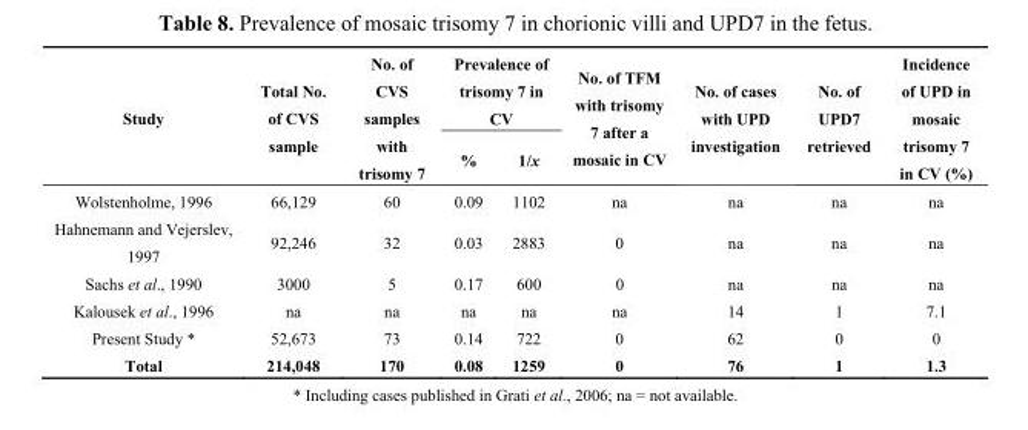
<table><thead><tr><td rowspan="2">Study</td><td rowspan="2">Total No. of CVS sample</td><td rowspan="2">No. of CVS samples with trisomy 7</td><td colspan="2">Prevalence of trisomy 7 in CV</td><td rowspan="2">No. of TFM with trisomy 7 after a mosaic in CV</td><td rowspan="2">No. of cases with UPD investigation</td><td rowspan="2">No. of UPD7 retrieved</td><td rowspan="2">Incidence of UPD in mosaic trisomy 7 in CV (%)</td></tr><tr><td>%</td><td>1/x</td></tr></thead><tbody><tr><td>Wolstenholme, 1996</td><td>66,129</td><td>60</td><td>0.09</td><td>1102</td><td>na</td><td>na</td><td>na</td><td>na</td></tr><tr><td>Hahnemann and Vejerslev, 1997</td><td>92,246</td><td>32</td><td>0.03</td><td>2883</td><td>0</td><td>na</td><td>na</td><td>na</td></tr><tr><td>Sachs et al., 1990</td><td>3000</td><td>5</td><td>0.17</td><td>600</td><td>0</td><td>na</td><td>na</td><td>na</td></tr><tr><td>Kalousek et al., 1996</td><td>na</td><td>na</td><td>na</td><td>na</td><td>na</td><td>14</td><td>1</td><td>7.1</td></tr><tr><td>Present Study *</td><td>52,673</td><td>73</td><td>0.14</td><td>722</td><td>0</td><td>62</td><td>0</td><td>0</td></tr><tr><td>Total</td><td>214,048</td><td>170</td><td>0.08</td><td>1259</td><td>0</td><td>76</td><td>1</td><td>1.3</td></tr></tbody></table>